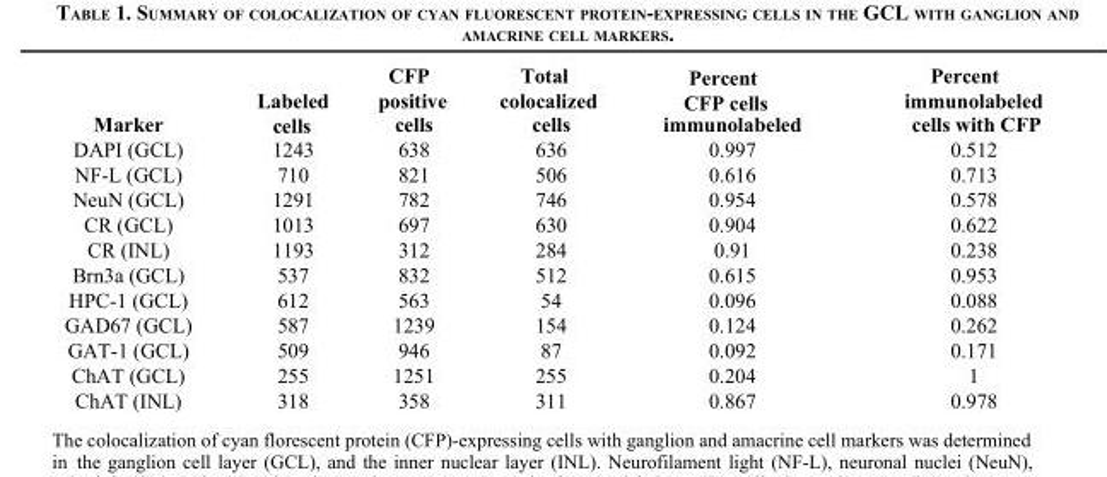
<table><thead><tr><td>Marker</td><td>Labeled cells</td><td>CFP positive cells</td><td>Total colocalized cells</td><td>Percent CFP cells immunolabeled</td><td>Percent immunolabeled cells with CFP</td></tr></thead><tbody><tr><td>DAPI (GCL)</td><td>1243</td><td>638</td><td>636</td><td>0.997</td><td>0.512</td></tr><tr><td>NF-L (GCL)</td><td>710</td><td>821</td><td>506</td><td>0.616</td><td>0.713</td></tr><tr><td>NeuN (GCL)</td><td>1291</td><td>782</td><td>746</td><td>0.954</td><td>0.578</td></tr><tr><td>CR (GCL)</td><td>1013</td><td>697</td><td>630</td><td>0.904</td><td>0.622</td></tr><tr><td>CR (INL)</td><td>1193</td><td>312</td><td>284</td><td>0.91</td><td>0.238</td></tr><tr><td>Brn3a (GCL)</td><td>537</td><td>832</td><td>512</td><td>0.615</td><td>0.953</td></tr><tr><td>HPC-1 (GCL)</td><td>612</td><td>563</td><td>54</td><td>0.096</td><td>0.088</td></tr><tr><td>GAD67 (GCL)</td><td>587</td><td>1239</td><td>154</td><td>0.124</td><td>0.262</td></tr><tr><td>GAT-1 (GCL)</td><td>509</td><td>946</td><td>87</td><td>0.092</td><td>0.171</td></tr><tr><td>ChAT (GCL)</td><td>255</td><td>1251</td><td>255</td><td>0.204</td><td>1</td></tr><tr><td>ChAT (INL)</td><td>318</td><td>358</td><td>311</td><td>0.867</td><td>0.978</td></tr></tbody></table>